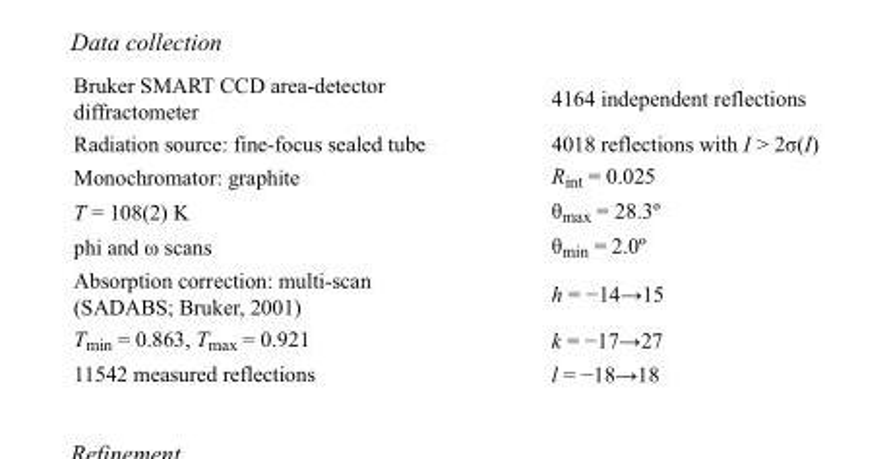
<table><tbody><tr><td>Bruker SMART CCD area-detector diffractometer</td><td>4164 independent reflections</td></tr><tr><td>Radiation source: fine-focus sealed tube</td><td>4018 reflections with I &gt; 2σ(I)</td></tr><tr><td>Monochromator: graphite</td><td>R<sub>int</sub> = 0.025</td></tr><tr><td>T = 108(2) K</td><td>θ<sub>max</sub> = 28.3º</td></tr><tr><td>phi and ω scans</td><td>θ<sub>min</sub> = 2.0º</td></tr><tr><td>Absorption correction: multi-scan (SADABS; Bruker, 2001)</td><td>h = −14→15</td></tr><tr><td>T<sub>min</sub> = 0.863, T<sub>max</sub> = 0.921</td><td>k = −17→27</td></tr><tr><td>11542 measured reflections</td><td>l = −18→18</td></tr></tbody></table>